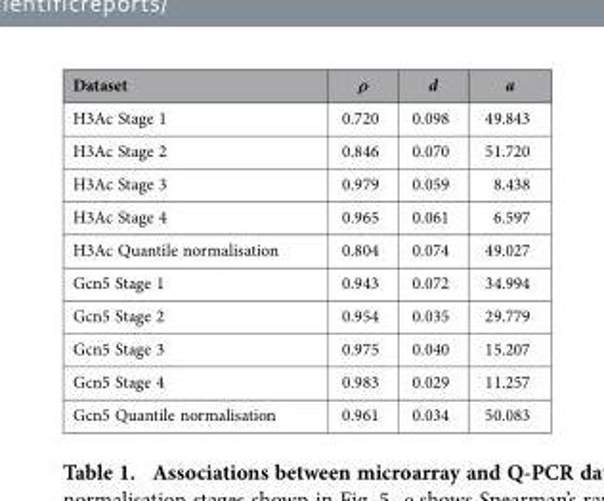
<table><thead><tr><td>Dataset</td><td>ρ</td><td>d</td><td>a</td></tr></thead><tbody><tr><td>H3Ac Stage 1</td><td>0.720</td><td>0.098</td><td>49.843</td></tr><tr><td>H3Ac Stage 2</td><td>0.846</td><td>0.070</td><td>51.720</td></tr><tr><td>H3Ac Stage 3</td><td>0.979</td><td>0.059</td><td>8.438</td></tr><tr><td>H3Ac Stage 4</td><td>0.965</td><td>0.061</td><td>6.597</td></tr><tr><td>H3Ac Quantile normalisation</td><td>0.804</td><td>0.074</td><td>49.027</td></tr><tr><td>Gcn5 Stage 1</td><td>0.943</td><td>0.072</td><td>34.994</td></tr><tr><td>Gcn5 Stage 2</td><td>0.954</td><td>0.035</td><td>29.779</td></tr><tr><td>Gcn5 Stage 3</td><td>0.975</td><td>0.040</td><td>15.207</td></tr><tr><td>Gcn5 Stage 4</td><td>0.983</td><td>0.029</td><td>11.257</td></tr><tr><td>Gcn5 Quantile normalisation</td><td>0.961</td><td>0.034</td><td>50.083</td></tr></tbody></table>